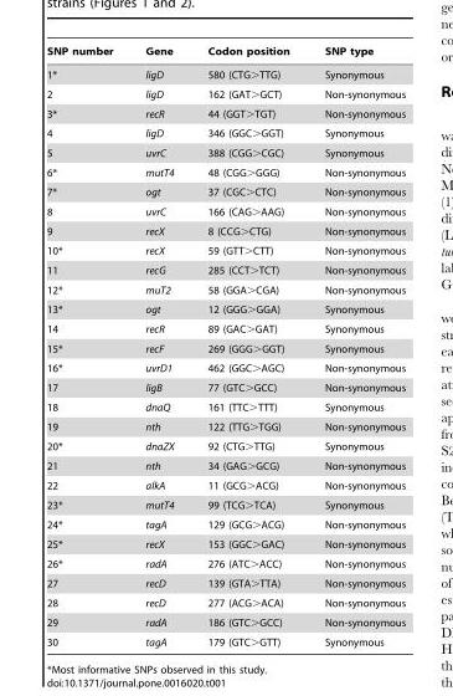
<table><thead><tr><td>SNP number</td><td>Gene</td><td>Codon position</td><td>SNP type</td></tr></thead><tbody><tr><td>1*</td><td>ligD</td><td>580 (CTG&gt;TTG)</td><td>Synonymous</td></tr><tr><td>2</td><td>ligD</td><td>162 (GAT&gt;GCT)</td><td>Non-synonymous</td></tr><tr><td>3*</td><td>recR</td><td>44 (GGT&gt;TGT)</td><td>Non-synonymous</td></tr><tr><td>4</td><td>ligD</td><td>346 (GGC&gt;GGT)</td><td>Synonymous</td></tr><tr><td>5</td><td>uvrC</td><td>388 (CGG&gt;CGC)</td><td>Synonymous</td></tr><tr><td>6*</td><td>mutT4</td><td>48 (CGG&gt;GGG)</td><td>Non-synonymous</td></tr><tr><td>7*</td><td>ogt</td><td>37 (CGC&gt;CTC)</td><td>Non-synonymous</td></tr><tr><td>8</td><td>uvrC</td><td>166 (CAG&gt;AAG)</td><td>Non-synonymous</td></tr><tr><td>9</td><td>recX</td><td>8 (CCG&gt;CTG)</td><td>Non-synonymous</td></tr><tr><td>10*</td><td>recX</td><td>59 (GTT&gt;CTT)</td><td>Non-synonymous</td></tr><tr><td>11</td><td>recG</td><td>285 (CCT&gt;TCT)</td><td>Non-synonymous</td></tr><tr><td>12*</td><td>muT2</td><td>58 (GGA&gt;CGA)</td><td>Non-synonymous</td></tr><tr><td>13*</td><td>ogt</td><td>12 (GGG&gt;GGA)</td><td>Synonymous</td></tr><tr><td>14</td><td>recR</td><td>89 (GAC&gt;GAT)</td><td>Synonymous</td></tr><tr><td>15*</td><td>recF</td><td>269 (GGG&gt;GGT)</td><td>Synonymous</td></tr><tr><td>16*</td><td>uvrD1</td><td>462 (GGC&gt;AGC)</td><td>Non-synonymous</td></tr><tr><td>17</td><td>ligB</td><td>77 (GTC&gt;GCC)</td><td>Non-synonymous</td></tr><tr><td>18</td><td>dnaQ</td><td>161 (TTC&gt;TTT)</td><td>Synonymous</td></tr><tr><td>19</td><td>nth</td><td>122 (TTG&gt;TGG)</td><td>Non-synonymous</td></tr><tr><td>20*</td><td>dnaZX</td><td>92 (CTG&gt;TTG)</td><td>Synonymous</td></tr><tr><td>21</td><td>nth</td><td>34 (GAG&gt;GCG)</td><td>Non-synonymous</td></tr><tr><td>22</td><td>alkA</td><td>11 (GCG&gt;ACG)</td><td>Non-synonymous</td></tr><tr><td>23*</td><td>mutT4</td><td>99 (TCG&gt;TCA)</td><td>Synonymous</td></tr><tr><td>24*</td><td>tagA</td><td>129 (GCG&gt;ACG)</td><td>Non-synonymous</td></tr><tr><td>25*</td><td>recX</td><td>153 (GGC&gt;GAC)</td><td>Non-synonymous</td></tr><tr><td>26*</td><td>radA</td><td>276 (ATC&gt;ACC)</td><td>Non-synonymous</td></tr><tr><td>27</td><td>recD</td><td>139 (GTA&gt;TTA)</td><td>Non-synonymous</td></tr><tr><td>28</td><td>recD</td><td>277 (ACG&gt;ACA)</td><td>Non-synonymous</td></tr><tr><td>29</td><td>radA</td><td>186 (GTC&gt;GCC)</td><td>Non-synonymous</td></tr><tr><td>30</td><td>tagA</td><td>179 (GTC&gt;GTT)</td><td>Synonymous</td></tr></tbody></table>